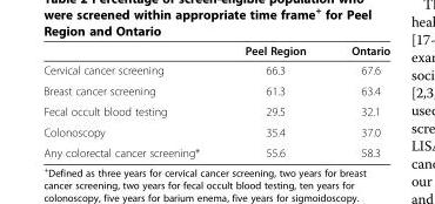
<table><thead><tr><td></td><td>Peel Region</td><td>Ontario</td></tr></thead><tbody><tr><td>Cervical cancer screening</td><td>66.3</td><td>67.6</td></tr><tr><td>Breast cancer screening</td><td>61.3</td><td>63.4</td></tr><tr><td>Fecal occult blood testing</td><td>29.5</td><td>32.1</td></tr><tr><td>Colonoscopy</td><td>35.4</td><td>37.0</td></tr><tr><td>Any colorectal cancer screening*</td><td>55.6</td><td>58.3</td></tr></tbody></table>